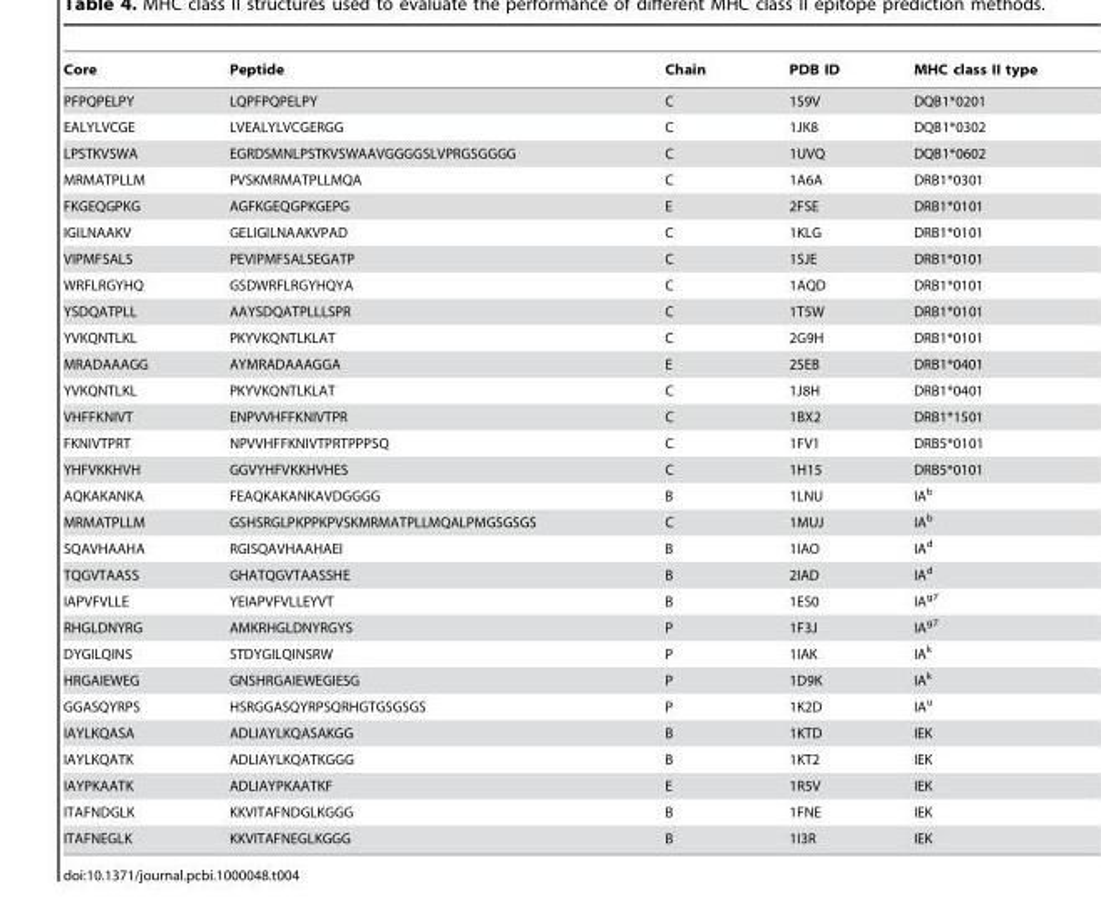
<table><thead><tr><td>Core</td><td>Peptide</td><td>Chain</td><td>PDB ID</td><td>MHC class II type</td></tr></thead><tbody><tr><td>PFPQPELPY</td><td>LQPFPQPELPY</td><td>C</td><td>1S9V</td><td>DQB1*0201</td></tr><tr><td>EALYLVCGE</td><td>LVEALYLVCGERGG</td><td>C</td><td>1JK8</td><td>DQB1*0302</td></tr><tr><td>LPSTKVSWA</td><td>EGRDSMNLPSTKVSWAAVGGGGSLVPRGSGGGG</td><td>C</td><td>1UVQ</td><td>DQB1*0602</td></tr><tr><td>MRMATPLLM</td><td>PVSKMRMATPLLMQA</td><td>C</td><td>1A6A</td><td>DRB1*0301</td></tr><tr><td>FKGEQGPKG</td><td>AGFKGEQGPKGEPG</td><td>E</td><td>2FSE</td><td>DRB1*0101</td></tr><tr><td>IGILNAAKV</td><td>GELIGILNAAKVPAD</td><td>C</td><td>1KLG</td><td>DRB1*0101</td></tr><tr><td>VIPMFSALS</td><td>PEVIPMFSALSEGATP</td><td>C</td><td>1SJE</td><td>DRB1*0101</td></tr><tr><td>WRFLRGYHQ</td><td>GSDWRFLRGYHQYA</td><td>C</td><td>1AQD</td><td>DRB1*0101</td></tr><tr><td>YSDQATPLL</td><td>AAYSDQATPLLLSPR</td><td>C</td><td>1T5W</td><td>DRB1*0101</td></tr><tr><td>YVKQNTLKL</td><td>PKYVKQNTLKLAT</td><td>C</td><td>2G9H</td><td>DRB1*0101</td></tr><tr><td>MRADAAAGG</td><td>AYMRADAAAGGA</td><td>E</td><td>2SEB</td><td>DRB1*0401</td></tr><tr><td>YVKQNTLKL</td><td>PKYVKQNTLKLAT</td><td>C</td><td>1J8H</td><td>DRB1*0401</td></tr><tr><td>VHFFKNIVT</td><td>ENPVVHFFKNIVTPR</td><td>C</td><td>1BX2</td><td>DRB1*1501</td></tr><tr><td>FKNIVTPRT</td><td>NPVVHFFKNIVTPRTPPPSQ</td><td>C</td><td>1FV1</td><td>DRB5*0101</td></tr><tr><td>YHFVKKHVH</td><td>GGVYHFVKKHVHES</td><td>C</td><td>1H15</td><td>DRB5*0101</td></tr><tr><td>AQKAKANKA</td><td>FEAQKAKANKAVDGGGG</td><td>B</td><td>1LNU</td><td>IA<sup>b</sup></td></tr><tr><td>MRMATPLLM</td><td>GSHSRGLPKPPKPVSKMRMATPLLMQALPMGSGSGS</td><td>C</td><td>1MUJ</td><td>IA<sup>b</sup></td></tr><tr><td>SQAVHAAHA</td><td>RGISQAVHAAHAEI</td><td>B</td><td>1IAO</td><td>IA<sup>d</sup></td></tr><tr><td>TQGVTAASS</td><td>GHATQGVTAASSHE</td><td>B</td><td>2IAD</td><td>IA<sup>d</sup></td></tr><tr><td>IAPVFVLLE</td><td>YEIAPVFVLLEYVT</td><td>B</td><td>1ES0</td><td>IA<sup>g7</sup></td></tr><tr><td>RHGLDNYRG</td><td>AMKRHGLDNYRGYS</td><td>P</td><td>1F3J</td><td>IA<sup>g7</sup></td></tr><tr><td>DYGILQINS</td><td>STDYGILQINSRW</td><td>P</td><td>1IAK</td><td>IA<sup>k</sup></td></tr><tr><td>HRGAIEWEG</td><td>GNSHRGAIEWEGIESG</td><td>P</td><td>1D9K</td><td>IA<sup>k</sup></td></tr><tr><td>GGASQYRPS</td><td>HSRGGASQYRPSQRHGTGSGSGS</td><td>P</td><td>1K2D</td><td>IA<sup>u</sup></td></tr><tr><td>IAYLKQASA</td><td>ADLIAYLKQASAKGG</td><td>B</td><td>1KTD</td><td>IEK</td></tr><tr><td>IAYLKQATK</td><td>ADLIAYLKQATKGGG</td><td>B</td><td>1KT2</td><td>IEK</td></tr><tr><td>IAYPKAATK</td><td>ADLIAYPKAATKF</td><td>E</td><td>1R5V</td><td>IEK</td></tr><tr><td>ITAFNDGLK</td><td>KKVITAFNDGLKGGG</td><td>B</td><td>1FNE</td><td>IEK</td></tr><tr><td>ITAFNEGLK</td><td>KKVITAFNEGLKGGG</td><td>B</td><td>1I3R</td><td>IEK</td></tr></tbody></table>